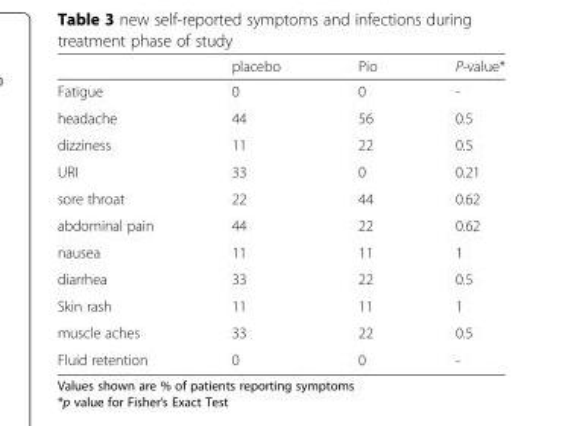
<table><thead><tr><td></td><td>placebo</td><td>Pio</td><td>P-value*</td></tr></thead><tbody><tr><td>Fatigue</td><td>0</td><td>0</td><td>-</td></tr><tr><td>headache</td><td>44</td><td>56</td><td>0.5</td></tr><tr><td>dizziness</td><td>11</td><td>22</td><td>0.5</td></tr><tr><td>URI</td><td>33</td><td>0</td><td>0.21</td></tr><tr><td>sore throat</td><td>22</td><td>44</td><td>0.62</td></tr><tr><td>abdominal pain</td><td>44</td><td>22</td><td>0.62</td></tr><tr><td>nausea</td><td>11</td><td>11</td><td>1</td></tr><tr><td>diarrhea</td><td>33</td><td>22</td><td>0.5</td></tr><tr><td>Skin rash</td><td>11</td><td>11</td><td>1</td></tr><tr><td>muscle aches</td><td>33</td><td>22</td><td>0.5</td></tr><tr><td>Fluid retention</td><td>0</td><td>0</td><td>-</td></tr></tbody></table>